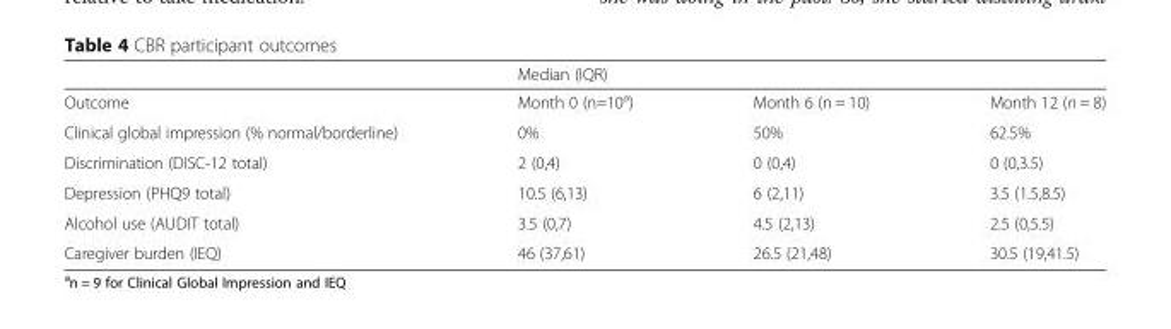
<table><thead><tr><td rowspan="2">Outcome</td><td colspan="3">Median (IQR)</td></tr><tr><td>Month 0 (n=10<sup>a</sup>)</td><td>Month 6 (n = 10)</td><td>Month 12 (n = 8)</td></tr></thead><tbody><tr><td>Clinical global impression (% normal/borderline)</td><td>0%</td><td>50%</td><td>62.5%</td></tr><tr><td>Discrimination (DISC-12 total)</td><td>2 (0,4)</td><td>0 (0,4)</td><td>0 (0,3.5)</td></tr><tr><td>Depression (PHQ9 total)</td><td>10.5 (6,13)</td><td>6 (2,11)</td><td>3.5 (1.5,8.5)</td></tr><tr><td>Alcohol use (AUDIT total)</td><td>3.5 (0,7)</td><td>4.5 (2,13)</td><td>2.5 (0,5.5)</td></tr><tr><td>Caregiver burden (IEQ)</td><td>46 (37,61)</td><td>26.5 (21,48)</td><td>30.5 (19,41.5)</td></tr></tbody></table>